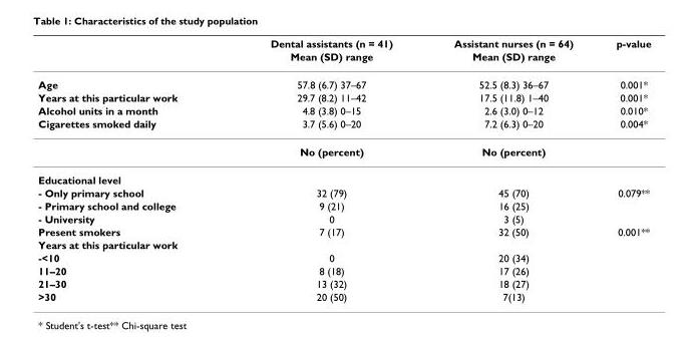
<table><thead><tr><td rowspan="2"></td><td rowspan="2">Dental assistants (n = 41) Mean (SD) range</td><td rowspan="2">Assistant nurses (n = 64) Mean (SD) range</td><td rowspan="2">p-value</td></tr><tr></tr></thead><tbody><tr><td>Age</td><td>57.8 (6.7) 37–67</td><td>52.5 (8.3) 36–67</td><td>0.001*</td></tr><tr><td>Years at this particular work</td><td>29.7 (8.2) 11–42</td><td>17.5 (11.8) 1–40</td><td>0.001*</td></tr><tr><td>Alcohol units in a month</td><td>4.8 (3.8) 0–15</td><td>2.6 (3.0) 0–12</td><td>0.010*</td></tr><tr><td rowspan="2">Cigarettes smoked daily</td><td>3.7 (5.6) 0–20</td><td>7.2 (6.3) 0–20</td><td>0.004*</td></tr><tr><td>No (percent)</td><td>No (percent)</td><td></td></tr><tr><td colspan="4">Educational level</td></tr><tr><td>- Only primary school</td><td>32 (79)</td><td>45 (70)</td><td>0.079**</td></tr><tr><td>- Primary school and college</td><td>9 (21)</td><td>16 (25)</td><td></td></tr><tr><td>- University</td><td>0</td><td>3 (5)</td><td></td></tr><tr><td>Present smokers</td><td>7 (17)</td><td>32 (50)</td><td>0.001**</td></tr><tr><td colspan="4">Years at this particular work</td></tr><tr><td>-&lt;10</td><td>0</td><td>20 (34)</td><td></td></tr><tr><td>11–20</td><td>8 (18)</td><td>17 (26)</td><td></td></tr><tr><td>21–30</td><td>13 (32)</td><td>18 (27)</td><td></td></tr><tr><td>&gt;30</td><td>20 (50)</td><td>7(13)</td><td></td></tr></tbody></table>